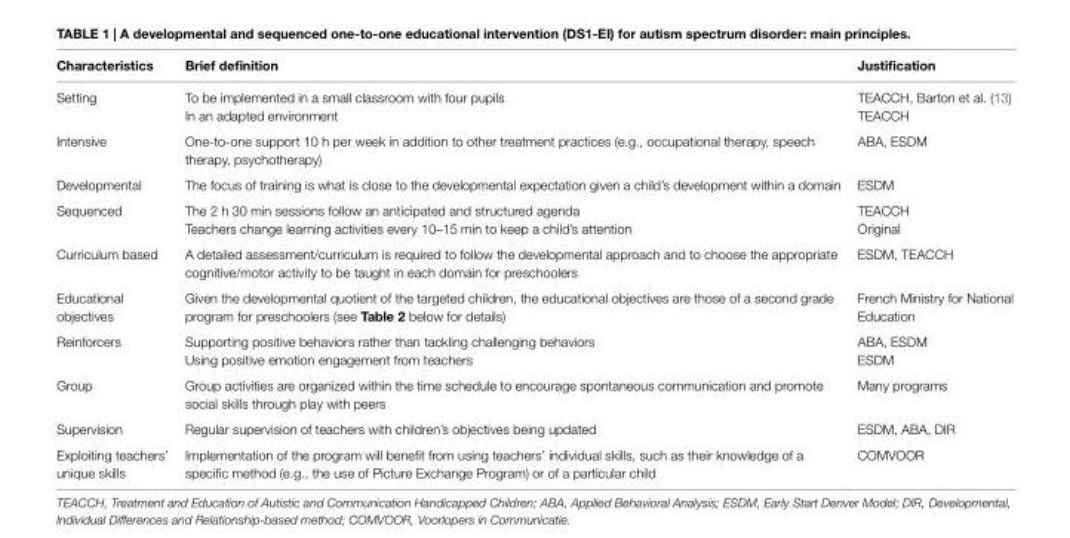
<table><thead><tr><td>Characteristics</td><td>Brief definition</td><td>Justification</td></tr></thead><tbody><tr><td rowspan="2">Setting</td><td>To be implemented in a small classroom with four pupils</td><td>TEACCH, Barton et al. (13)</td></tr><tr><td>In an adapted environment</td><td>TEACCH</td></tr><tr><td>Intensive</td><td>One-to-one support 10 h per week in addition to other treatment practices (e.g., occupational therapy, speech therapy, psychotherapy)</td><td>ABA, ESDM</td></tr><tr><td>Developmental</td><td>The focus of training is what is close to the developmental expectation given a child’s development within a domain</td><td>ESDM</td></tr><tr><td rowspan="2">Sequenced</td><td>The 2 h 30 min sessions follow an anticipated and structured agenda</td><td>TEACCH</td></tr><tr><td>Teachers change learning activities every 10–15 min to keep a child’s attention</td><td>Original</td></tr><tr><td>Curriculum based</td><td>A detailed assessment/curriculum is required to follow the developmental approach and to choose the appropriate cognitive/motor activity to be taught in each domain for preschoolers</td><td>ESDM, TEACCH</td></tr><tr><td>Educational objectives</td><td>Given the developmental quotient of the targeted children, the educational objectives are those of a second grade program for preschoolers (see table 2 below for details)</td><td>French Ministry for National Education</td></tr><tr><td rowspan="2">Reinforcers</td><td>Supporting positive behaviors rather than tackling challenging behaviors</td><td>ABA, ESDM</td></tr><tr><td>Using positive emotion engagement from teachers</td><td>ESDM</td></tr><tr><td>Group</td><td>Group activities are organized within the time schedule to encourage spontaneous communication and promote social skills through play with peers</td><td>Many programs</td></tr><tr><td>Supervision</td><td>Regular supervision of teachers with children’s objectives being updated</td><td>ESDM, ABA, DIR</td></tr><tr><td>Exploiting teachers’ unique skills</td><td>Implementation of the program will benefit from using teachers’ individual skills, such as their knowledge of a specific method (e.g., the use of Picture Exchange Program) or of a particular child</td><td>COMVOOR</td></tr></tbody></table>